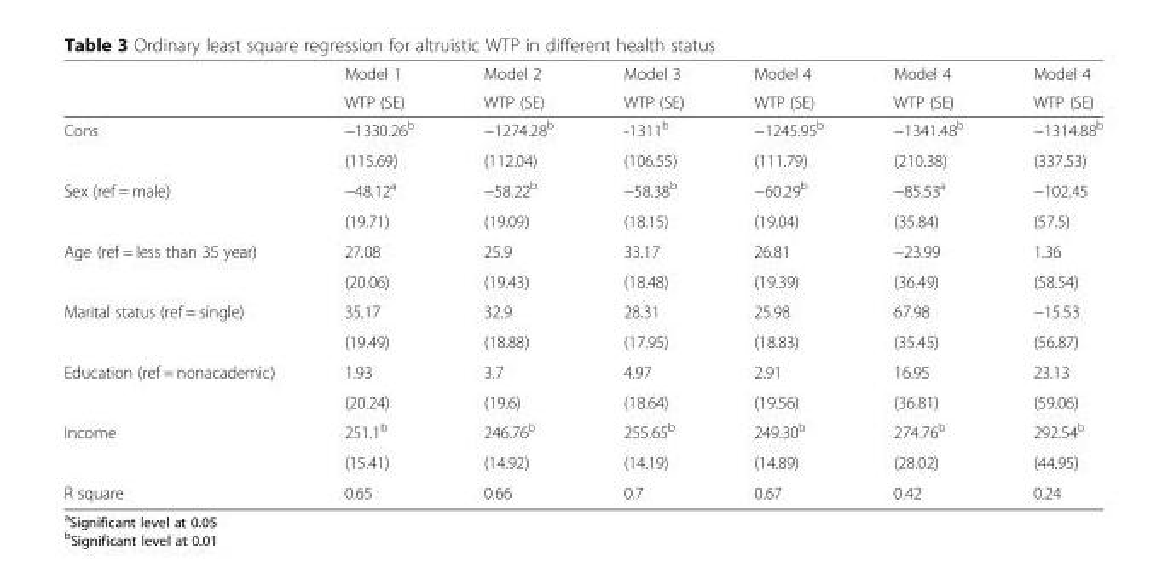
<table><thead><tr><td rowspan="2"></td><td rowspan="2">Model 1 WTP (SE)</td><td rowspan="2">Model 2 WTP (SE)</td><td rowspan="2">Model 3 WTP (SE)</td><td rowspan="2">Model 4 WTP (SE)</td><td rowspan="2">Model 4 WTP (SE)</td><td rowspan="2">Model 4 WTP (SE)</td></tr><tr></tr></thead><tbody><tr><td rowspan="2">Cons</td><td>−1330.26<sup>b</sup></td><td>−1274.28<sup>b</sup></td><td>-1311<sup>b</sup></td><td>−1245.95<sup>b</sup></td><td>−1341.48<sup>b</sup></td><td>−1314.88<sup>b</sup></td></tr><tr><td>(115.69)</td><td>(112.04)</td><td>(106.55)</td><td>(111.79)</td><td>(210.38)</td><td>(337.53)</td></tr><tr><td rowspan="2">Sex (ref = male)</td><td>−48.12<sup>a</sup></td><td>−58.22<sup>b</sup></td><td>−58.38<sup>b</sup></td><td>−60.29<sup>b</sup></td><td>−85.53<sup>a</sup></td><td>−102.45</td></tr><tr><td>(19.71)</td><td>(19.09)</td><td>(18.15)</td><td>(19.04)</td><td>(35.84)</td><td>(57.5)</td></tr><tr><td rowspan="2">Age (ref = less than 35 year)</td><td>27.08</td><td>25.9</td><td>33.17</td><td>26.81</td><td>−23.99</td><td>1.36</td></tr><tr><td>(20.06)</td><td>(19.43)</td><td>(18.48)</td><td>(19.39)</td><td>(36.49)</td><td>(58.54)</td></tr><tr><td rowspan="2">Marital status (ref = single)</td><td>35.17</td><td>32.9</td><td>28.31</td><td>25.98</td><td>67.98</td><td>−15.53</td></tr><tr><td>(19.49)</td><td>(18.88)</td><td>(17.95)</td><td>(18.83)</td><td>(35.45)</td><td>(56.87)</td></tr><tr><td rowspan="2">Education (ref = nonacademic)</td><td>1.93</td><td>3.7</td><td>4.97</td><td>2.91</td><td>16.95</td><td>23.13</td></tr><tr><td>(20.24)</td><td>(19.6)</td><td>(18.64)</td><td>(19.56)</td><td>(36.81)</td><td>(59.06)</td></tr><tr><td rowspan="2">Income</td><td>251.1<sup>b</sup></td><td>246.76<sup>b</sup></td><td>255.65<sup>b</sup></td><td>249.30<sup>b</sup></td><td>274.76<sup>b</sup></td><td>292.54<sup>b</sup></td></tr><tr><td>(15.41)</td><td>(14.92)</td><td>(14.19)</td><td>(14.89)</td><td>(28.02)</td><td>(44.95)</td></tr><tr><td>R square</td><td>0.65</td><td>0.66</td><td>0.7</td><td>0.67</td><td>0.42</td><td>0.24</td></tr></tbody></table>